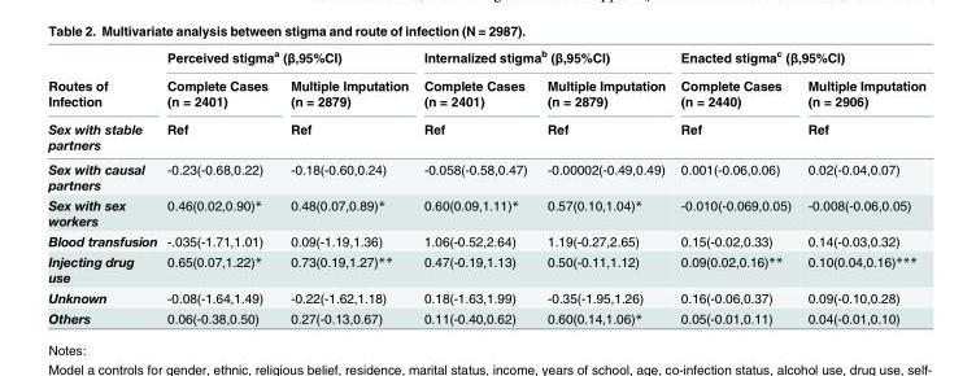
<table><thead><tr><td rowspan="3">Routes of Infection Sex with stable partners</td><td colspan="2">Perceived stigma<sup>a</sup> (β,95%CI)</td><td colspan="2">Internalized stigma<sup>b</sup> (β,95%CI)</td><td colspan="2">Enacted stigma<sup>c</sup> (β,95%CI)</td></tr><tr><td rowspan="2">Complete Cases (n = 2401) Ref</td><td rowspan="2">Multiple Imputation (n = 2879) Ref</td><td rowspan="2">Complete Cases (n = 2401) Ref</td><td rowspan="2">Multiple Imputation (n = 2879) Ref</td><td rowspan="2">Complete Cases (n = 2440) Ref</td><td rowspan="2">Multiple Imputation (n = 2906) Ref</td></tr><tr></tr></thead><tbody><tr><td>Sex with causal partners</td><td>-0.23(-0.68,0.22)</td><td>-0.18(-0.60,0.24)</td><td>-0.058(-0.58,0.47)</td><td>-0.00002(-0.49,0.49)</td><td>0.001(-0.06,0.06)</td><td>0.02(-0.04,0.07)</td></tr><tr><td>Sex with sex workers</td><td>0.46(0.02,0.90)*</td><td>0.48(0.07,0.89)*</td><td>0.60(0.09,1.11)*</td><td>0.57(0.10,1.04)*</td><td>-0.010(-0.069,0.05)</td><td>-0.008(-0.06,0.05)</td></tr><tr><td>Blood transfusion</td><td>-.035(-1.71,1.01)</td><td>0.09(-1.19,1.36)</td><td>1.06(-0.52,2.64)</td><td>1.19(-0.27,2.65)</td><td>0.15(-0.02,0.33)</td><td>0.14(-0.03,0.32)</td></tr><tr><td>Injecting drug use</td><td>0.65(0.07,1.22)*</td><td>0.73(0.19,1.27)**</td><td>0.47(-0.19,1.13)</td><td>0.50(-0.11,1.12)</td><td>0.09(0.02,0.16)**</td><td>0.10(0.04,0.16)***</td></tr><tr><td>Unknown</td><td>-0.08(-1.64,1.49)</td><td>-0.22(-1.62,1.18)</td><td>0.18(-1.63,1.99)</td><td>-0.35(-1.95,1.26)</td><td>0.16(-0.06,0.37)</td><td>0.09(-0.10,0.28)</td></tr><tr><td>Others</td><td>0.06(-0.38,0.50)</td><td>0.27(-0.13,0.67)</td><td>0.11(-0.40,0.62)</td><td>0.60(0.14,1.06)*</td><td>0.05(-0.01,0.11)</td><td>0.04(-0.01,0.10)</td></tr></tbody></table>